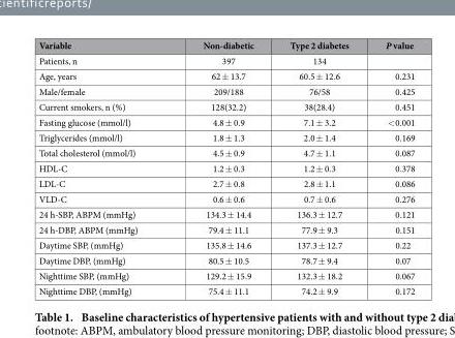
<table><thead><tr><td>Variable</td><td>Non-diabetic</td><td>Type 2 diabetes</td><td>P value</td></tr></thead><tbody><tr><td>Patients, n</td><td>397</td><td>134</td><td></td></tr><tr><td>Age, years</td><td>62 ± 13.7</td><td>60.5 ± 12.6</td><td>0.231</td></tr><tr><td>Male/female</td><td>209/188</td><td>76/58</td><td>0.425</td></tr><tr><td>Current smokers, n (%)</td><td>128(32.2)</td><td>38(28.4)</td><td>0.451</td></tr><tr><td>Fasting glucose (mmol/l)</td><td>4.8 ± 0.9</td><td>7.1 ± 3.2</td><td>&lt; 0.001</td></tr><tr><td>Triglycerides (mmol/l)</td><td>1.8 ± 1.3</td><td>2.0 ± 1.4</td><td>0.169</td></tr><tr><td>Total cholesterol (mmol/l)</td><td>4.5 ± 0.9</td><td>4.7 ± 1.1</td><td>0.087</td></tr><tr><td>HDL-C</td><td>1.2 ± 0.3</td><td>1.2 ± 0.3</td><td>0.378</td></tr><tr><td>LDL-C</td><td>2.7 ± 0.8</td><td>2.8 ± 1.1</td><td>0.086</td></tr><tr><td>VLD-C</td><td>0.6 ± 0.6</td><td>0.7 ± 0.6</td><td>0.276</td></tr><tr><td>24 h-SBP, ABPM (mmHg)</td><td>134.3 ± 14.4</td><td>136.3 ± 12.7</td><td>0.121</td></tr><tr><td>24 h-DBP, ABPM (mmHg)</td><td>79.4 ± 11.1</td><td>77.9 ± 9.3</td><td>0.151</td></tr><tr><td>Daytime SBP, (mmHg)</td><td>135.8 ± 14.6</td><td>137.3 ± 12.7</td><td>0.22</td></tr><tr><td>Daytime DBP, (mmHg)</td><td>80.5 ± 10.5</td><td>78.7 ± 9.4</td><td>0.07</td></tr><tr><td>Nighttime SBP, (mmHg)</td><td>129.2 ± 15.9</td><td>132.3 ± 18.2</td><td>0.067</td></tr><tr><td>Nighttime DBP, (mmHg)</td><td>75.4 ± 11.1</td><td>74.2 ± 9.9</td><td>0.172</td></tr></tbody></table>